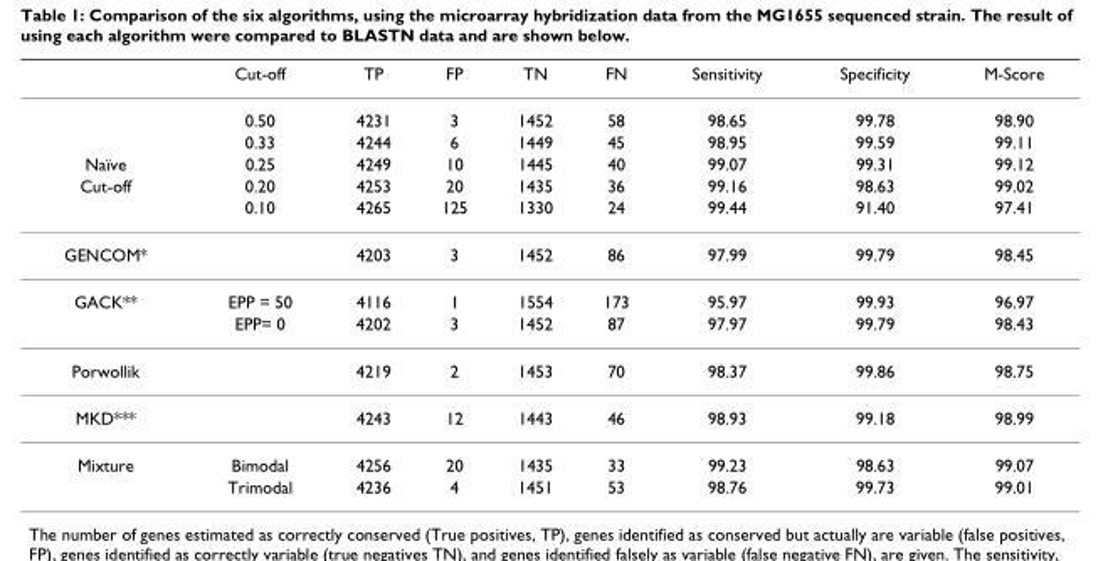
<table><thead><tr><td></td><td>Cut-off</td><td>TP</td><td>FP</td><td>TN</td><td>FN</td><td>Sensitivity</td><td>Specificity</td><td>M-Score</td></tr></thead><tbody><tr><td></td><td>0.50</td><td>4231</td><td>3</td><td>1452</td><td>58</td><td>98.65</td><td>99.78</td><td>98.90</td></tr><tr><td></td><td>0.33</td><td>4244</td><td>6</td><td>1449</td><td>45</td><td>98.95</td><td>99.59</td><td>99.11</td></tr><tr><td>Naïve</td><td>0.25</td><td>4249</td><td>10</td><td>1445</td><td>40</td><td>99.07</td><td>99.31</td><td>99.12</td></tr><tr><td rowspan="2">Cut-off</td><td>0.20</td><td>4253</td><td>20</td><td>1435</td><td>36</td><td>99.16</td><td>98.63</td><td>99.02</td></tr><tr><td>0.10</td><td>4265</td><td>125</td><td>1330</td><td>24</td><td>99.44</td><td>91.40</td><td>97.41</td></tr><tr><td>GENCOM*</td><td></td><td>4203</td><td>3</td><td>1452</td><td>86</td><td>97.99</td><td>99.79</td><td>98.45</td></tr><tr><td rowspan="2">GACK**</td><td>EPP = 50</td><td>4116</td><td>1</td><td>1554</td><td>173</td><td>95.97</td><td>99.93</td><td>96.97</td></tr><tr><td>EPP= 0</td><td>4202</td><td>3</td><td>1452</td><td>87</td><td>97.97</td><td>99.79</td><td>98.43</td></tr><tr><td>Porwollik</td><td></td><td>4219</td><td>2</td><td>1453</td><td>70</td><td>98.37</td><td>99.86</td><td>98.75</td></tr><tr><td>MKD***</td><td></td><td>4243</td><td>12</td><td>1443</td><td>46</td><td>98.93</td><td>99.18</td><td>98.99</td></tr><tr><td rowspan="2">Mixture</td><td>Bimodal</td><td>4256</td><td>20</td><td>1435</td><td>33</td><td>99.23</td><td>98.63</td><td>99.07</td></tr><tr><td>Trimodal</td><td>4236</td><td>4</td><td>1451</td><td>53</td><td>98.76</td><td>99.73</td><td>99.01</td></tr></tbody></table>